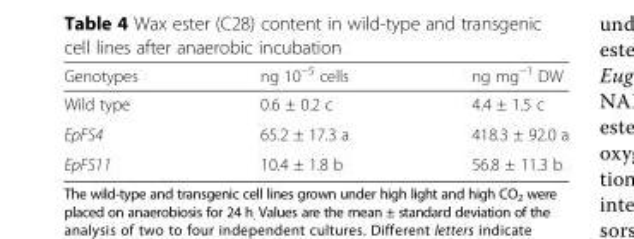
<table><thead><tr><td>Genotypes</td><td>ng 10<sup>−5</sup> cells</td><td>ng mg<sup>−1</sup> DW</td></tr></thead><tbody><tr><td>Wild type</td><td>0.6 ± 0.2 c</td><td>4.4 ± 1.5 c</td></tr><tr><td>EpFS4</td><td>65.2 ± 17.3 a</td><td>418.3 ± 92.0 a</td></tr><tr><td>EpFS11</td><td>10.4 ± 1.8 b</td><td>56.8 ± 11.3 b</td></tr></tbody></table>